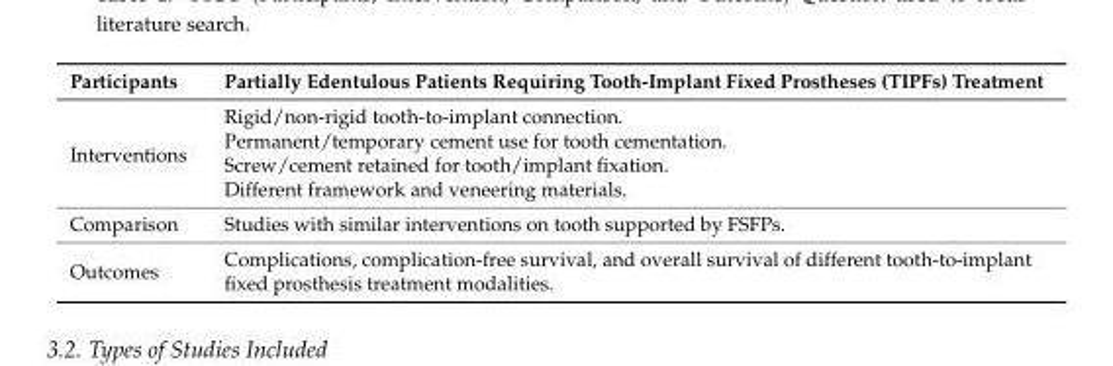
<table><thead><tr><td>Participants</td><td>Partially Edentulous Patients Requiring Tooth-Implant Fixed Prostheses (TIPFs) Treatment</td></tr></thead><tbody><tr><td rowspan="4">Interventions</td><td>Rigid/non-rigid tooth-to-implant connection.</td></tr><tr><td>Permanent/temporary cement use for tooth cementation.</td></tr><tr><td>Screw/cement retained for tooth/implant fixation.</td></tr><tr><td>Different framework and veneering materials.</td></tr><tr><td>Comparison</td><td>Studies with similar interventions on tooth supported by FSFPs.</td></tr><tr><td>Outcomes</td><td>Complications, complication-free survival, and overall survival of different tooth-to-implant fixed prosthesis treatment modalities.</td></tr></tbody></table>